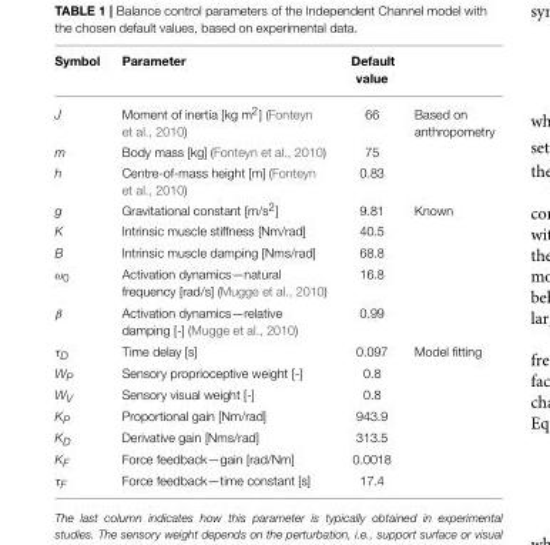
<table><thead><tr><td>Symbol</td><td>Parameter</td><td>Default value</td><td></td></tr></thead><tbody><tr><td>J</td><td>Moment of inertia [kg m<sup>2</sup>] (Fonteyn et al., 2010)</td><td>66</td><td>Based on anthropometry</td></tr><tr><td>m</td><td>Body mass [kg] (Fonteyn et al., 2010)</td><td>75</td><td></td></tr><tr><td>h</td><td>Centre-of-mass height [m] (Fonteyn et al., 2010)</td><td>0.83</td><td></td></tr><tr><td>g</td><td>Gravitational constant [m/s<sup>2</sup>]</td><td>9.81</td><td>Known</td></tr><tr><td>K</td><td>Intrinsic muscle stiffness [Nm/rad]</td><td>40.5</td><td></td></tr><tr><td>B</td><td>Intrinsic muscle damping [Nms/rad]</td><td>68.8</td><td></td></tr><tr><td>ω<sub>0</sub></td><td>Activation dynamics—natural frequency [rad/s] (Mugge et al., 2010)</td><td>16.8</td><td></td></tr><tr><td>β</td><td>Activation dynamics—relative damping [-] (Mugge et al., 2010)</td><td>0.99</td><td></td></tr><tr><td>τ<sub>D</sub></td><td>Time delay [s]</td><td>0.097</td><td>Model fitting</td></tr><tr><td>WP</td><td>Sensory proprioceptive weight [-]</td><td>0.8</td><td></td></tr><tr><td>WV</td><td>Sensory visual weight [-]</td><td>0.8</td><td></td></tr><tr><td>KP</td><td>Proportional gain [Nm/rad]</td><td>943.9</td><td></td></tr><tr><td>KD</td><td>Derivative gain [Nms/rad]</td><td>313.5</td><td></td></tr><tr><td>KF</td><td>Force feedback—gain [rad/Nm]</td><td>0.0018</td><td></td></tr><tr><td>τ<sub>F</sub></td><td>Force feedback—time constant [s]</td><td>17.4</td><td></td></tr></tbody></table>